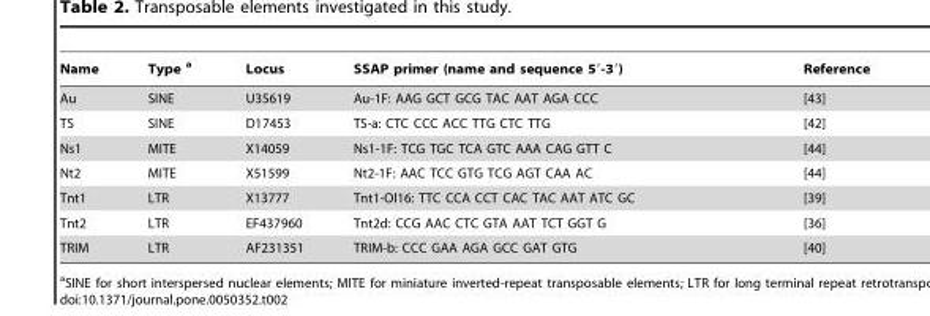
<table><thead><tr><td>Name</td><td>Type a</td><td>Locus</td><td>SSAP primer (name and sequence 5′-3′)</td><td>Reference</td></tr></thead><tbody><tr><td>Au</td><td>SINE</td><td>U35619</td><td>Au-1F: AAG GCT GCG TAC AAT AGA CCC</td><td>[43]</td></tr><tr><td>TS</td><td>SINE</td><td>D17453</td><td>TS-a: CTC CCC ACC TTG CTC TTG</td><td>[42]</td></tr><tr><td>Ns1</td><td>MITE</td><td>X14059</td><td>Ns1-1F: TCG TGC TCA GTC AAA CAG GTT C</td><td>[44]</td></tr><tr><td>Nt2</td><td>MITE</td><td>X51599</td><td>Nt2-1F: AAC TCC GTG TCG AGT CAA AC</td><td>[44]</td></tr><tr><td>Tnt1</td><td>LTR</td><td>X13777</td><td>Tnt1-Ol16: TTC CCA CCT CAC TAC AAT ATC GC</td><td>[39]</td></tr><tr><td>Tnt2</td><td>LTR</td><td>EF437960</td><td>Tnt2d: CCG AAC CTC GTA AAT TCT GGT G</td><td>[36]</td></tr><tr><td>TRIM</td><td>LTR</td><td>AF231351</td><td>TRIM-b: CCC GAA AGA GCC GAT GTG</td><td>[40]</td></tr></tbody></table>